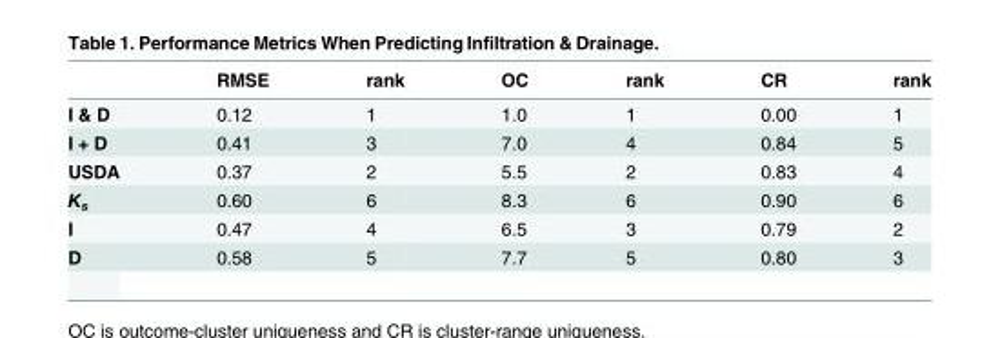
<table><thead><tr><td></td><td>RMSE</td><td>rank</td><td>OC</td><td>rank</td><td>CR</td><td>rank</td></tr></thead><tbody><tr><td>I &amp; D</td><td>0.12</td><td>1</td><td>1.0</td><td>1</td><td>0.00</td><td>1</td></tr><tr><td>I + D</td><td>0.41</td><td>3</td><td>7.0</td><td>4</td><td>0.84</td><td>5</td></tr><tr><td>USDA</td><td>0.37</td><td>2</td><td>5.5</td><td>2</td><td>0.83</td><td>4</td></tr><tr><td>K<sub>s</sub></td><td>0.60</td><td>6</td><td>8.3</td><td>6</td><td>0.90</td><td>6</td></tr><tr><td>I</td><td>0.47</td><td>4</td><td>6.5</td><td>3</td><td>0.79</td><td>2</td></tr><tr><td>D</td><td>0.58</td><td>5</td><td>7.7</td><td>5</td><td>0.80</td><td>3</td></tr></tbody></table>